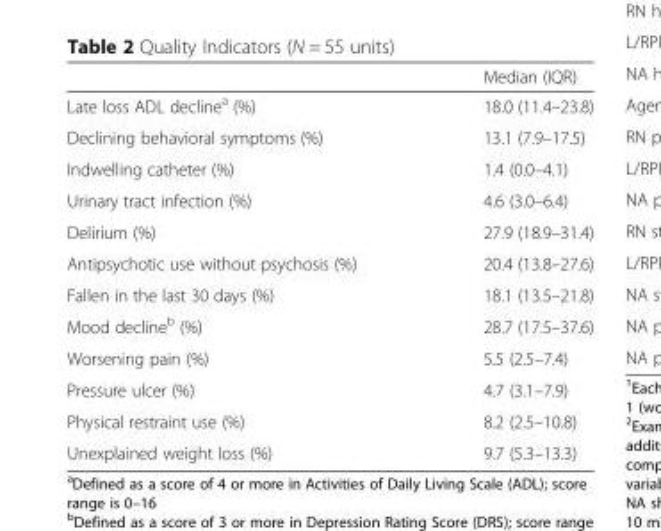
<table><thead><tr><td></td><td>Median (IQR)</td></tr></thead><tbody><tr><td>Late loss ADL decline<sup>a</sup> (%)</td><td>18.0 (11.4–23.8)</td></tr><tr><td>Declining behavioral symptoms (%)</td><td>13.1 (7.9–17.5)</td></tr><tr><td>Indwelling catheter (%)</td><td>1.4 (0.0–4.1)</td></tr><tr><td>Urinary tract infection (%)</td><td>4.6 (3.0–6.4)</td></tr><tr><td>Delirium (%)</td><td>27.9 (18.9–31.4)</td></tr><tr><td>Antipsychotic use without psychosis (%)</td><td>20.4 (13.8–27.6)</td></tr><tr><td>Fallen in the last 30 days (%)</td><td>18.1 (13.5–21.8)</td></tr><tr><td>Mood decline<sup>b</sup> (%)</td><td>28.7 (17.5–37.6)</td></tr><tr><td>Worsening pain (%)</td><td>5.5 (2.5–7.4)</td></tr><tr><td>Pressure ulcer (%)</td><td>4.7 (3.1–7.9)</td></tr><tr><td>Physical restraint use (%)</td><td>8.2 (2.5–10.8)</td></tr><tr><td>Unexplained weight loss (%)</td><td>9.7 (5.3–13.3)</td></tr></tbody></table>